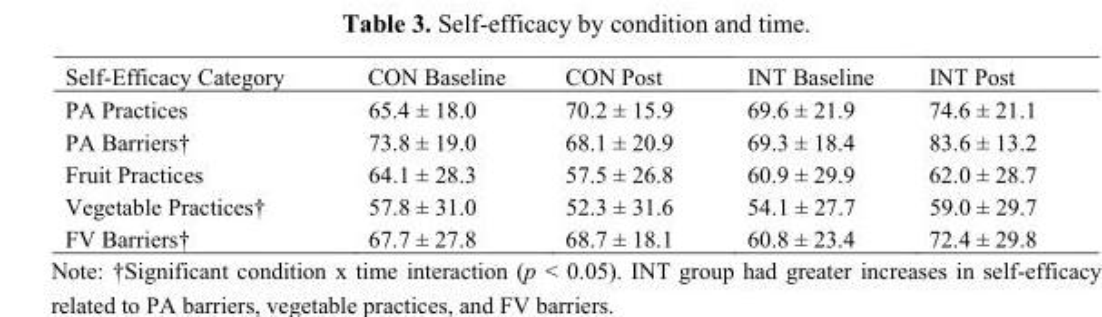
<table><thead><tr><td>Self-Efficacy Category</td><td>CON Baseline</td><td>CON Post</td><td>INT Baseline</td><td>INT Post</td></tr></thead><tbody><tr><td>PA Practices</td><td>65.4 ± 18.0</td><td>70.2 ± 15.9</td><td>69.6 ± 21.9</td><td>74.6 ± 21.1</td></tr><tr><td>PA Barriers†</td><td>73.8 ± 19.0</td><td>68.1 ± 20.9</td><td>69.3 ± 18.4</td><td>83.6 ± 13.2</td></tr><tr><td>Fruit Practices</td><td>64.1 ± 28.3</td><td>57.5 ± 26.8</td><td>60.9 ± 29.9</td><td>62.0 ± 28.7</td></tr><tr><td>Vegetable Practices†</td><td>57.8 ± 31.0</td><td>52.3 ± 31.6</td><td>54.1 ± 27.7</td><td>59.0 ± 29.7</td></tr><tr><td>FV Barriers†</td><td>67.7 ± 27.8</td><td>68.7 ± 18.1</td><td>60.8 ± 23.4</td><td>72.4 ± 29.8</td></tr></tbody></table>